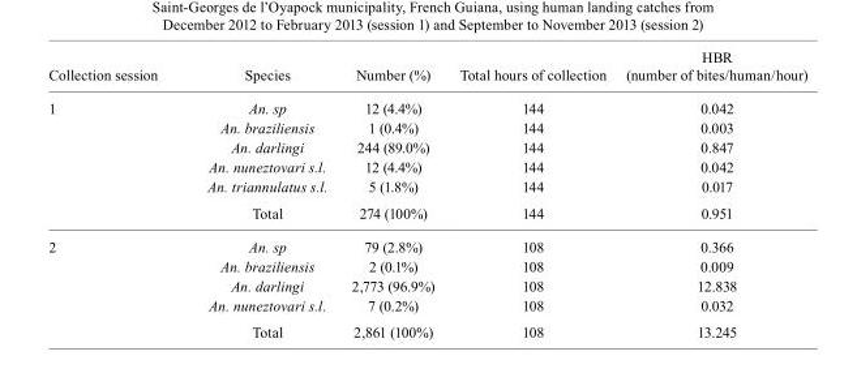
<table><thead><tr><td>Collection session</td><td>Species</td><td>Number (%)</td><td>Total hours of collection</td><td>HBR (number of bites/human/hour)</td></tr></thead><tbody><tr><td rowspan="6">1</td><td>An. sp</td><td>12 (4.4%)</td><td>144</td><td>0.042</td></tr><tr><td>An. braziliensis</td><td>1 (0.4%)</td><td>144</td><td>0.003</td></tr><tr><td>An. darlingi</td><td>244 (89.0%)</td><td>144</td><td>0.847</td></tr><tr><td>An. nuneztovari s.l.</td><td>12 (4.4%)</td><td>144</td><td>0.042</td></tr><tr><td>An. triannulatus s.l.</td><td>5 (1.8%)</td><td>144</td><td>0.017</td></tr><tr><td>Total</td><td>274 (100%)</td><td>144</td><td>0.951</td></tr><tr><td rowspan="5">2</td><td>An. sp</td><td>79 (2.8%)</td><td>108</td><td>0.366</td></tr><tr><td>An. braziliensis</td><td>2 (0.1%)</td><td>108</td><td>0.009</td></tr><tr><td>An. darlingi</td><td>2,773 (96.9%)</td><td>108</td><td>12.838</td></tr><tr><td>An. nuneztovari s.l.</td><td>7 (0.2%)</td><td>108</td><td>0.032</td></tr><tr><td>Total</td><td>2,861 (100%)</td><td>108</td><td>13.245</td></tr></tbody></table>